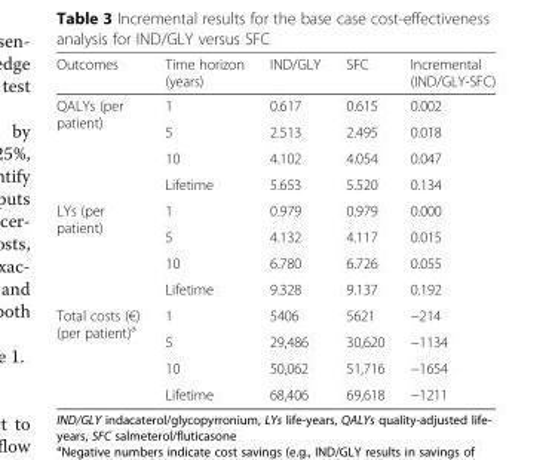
<table><thead><tr><td>Outcomes</td><td>Time horizon (years)</td><td>IND/GLY</td><td>SFC</td><td>Incremental (IND/GLY-SFC)</td></tr></thead><tbody><tr><td rowspan="4">QALYs (per patient)</td><td>1</td><td>0.617</td><td>0.615</td><td>0.002</td></tr><tr><td>5</td><td>2.513</td><td>2.495</td><td>0.018</td></tr><tr><td>10</td><td>4.102</td><td>4.054</td><td>0.047</td></tr><tr><td>Lifetime</td><td>5.653</td><td>5.520</td><td>0.134</td></tr><tr><td rowspan="4">LYs (per patient)</td><td>1</td><td>0.979</td><td>0.979</td><td>0.000</td></tr><tr><td>5</td><td>4.132</td><td>4.117</td><td>0.015</td></tr><tr><td>10</td><td>6.780</td><td>6.726</td><td>0.055</td></tr><tr><td>Lifetime</td><td>9.328</td><td>9.137</td><td>0.192</td></tr><tr><td rowspan="4">Total costs (€) (per patient)<sup>a</sup></td><td>1</td><td>5406</td><td>5621</td><td>−214</td></tr><tr><td>5</td><td>29,486</td><td>30,620</td><td>−1134</td></tr><tr><td>10</td><td>50,062</td><td>51,716</td><td>−1654</td></tr><tr><td>Lifetime</td><td>68,406</td><td>69,618</td><td>−1211</td></tr></tbody></table>